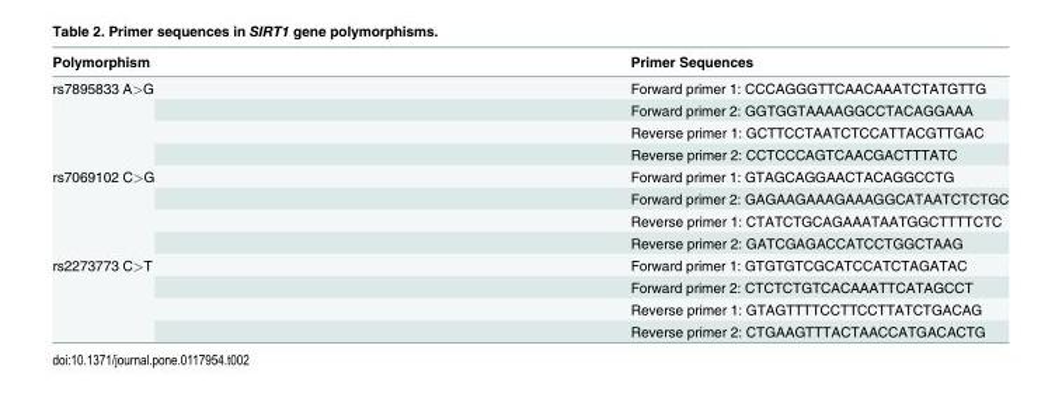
<table><thead><tr><td>Polymorphism</td><td>Primer Sequences</td></tr></thead><tbody><tr><td rowspan="4">rs7895833 A&gt;G</td><td>Forward primer 1: CCCAGGGTTCAACAAATCTATGTTG</td></tr><tr><td>Forward primer 2: GGTGGTAAAAGGCCTACAGGAAA</td></tr><tr><td>Reverse primer 1: GCTTCCTAATCTCCATTACGTTGAC</td></tr><tr><td>Reverse primer 2: CCTCCCAGTCAACGACTTTATC</td></tr><tr><td rowspan="4">rs7069102 C&gt;G</td><td>Forward primer 1: GTAGCAGGAACTACAGGCCTG</td></tr><tr><td>Forward primer 2: GAGAAGAAAGAAAGGCATAATCTCTGC</td></tr><tr><td>Reverse primer 1: CTATCTGCAGAAATAATGGCTTTTCTC</td></tr><tr><td>Reverse primer 2: GATCGAGACCATCCTGGCTAAG</td></tr><tr><td rowspan="4">rs2273773 C&gt;T</td><td>Forward primer 1: GTGTGTCGCATCCATCTAGATAC</td></tr><tr><td>Forward primer 2: CTCTCTGTCACAAATTCATAGCCT</td></tr><tr><td>Reverse primer 1: GTAGTTTTCCTTCCTTATCTGACAG</td></tr><tr><td>Reverse primer 2: CTGAAGTTTACTAACCATGACACTG</td></tr></tbody></table>